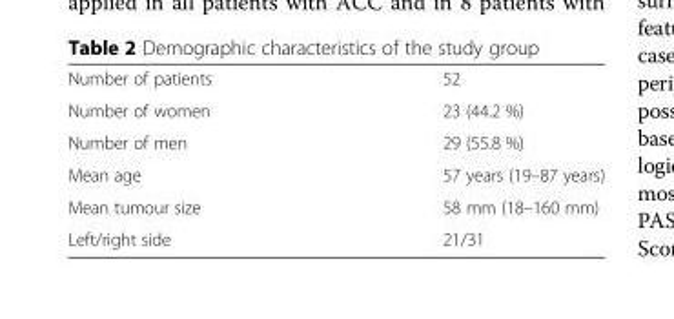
<table><tbody><tr><td>Number of patients</td><td>52</td></tr><tr><td>Number of women</td><td>23 (44.2 %)</td></tr><tr><td>Number of men</td><td>29 (55.8 %)</td></tr><tr><td>Mean age</td><td>57 years (19–87 years)</td></tr><tr><td>Mean tumour size</td><td>58 mm (18–160 mm)</td></tr><tr><td>Left/right side</td><td>21/31</td></tr></tbody></table>